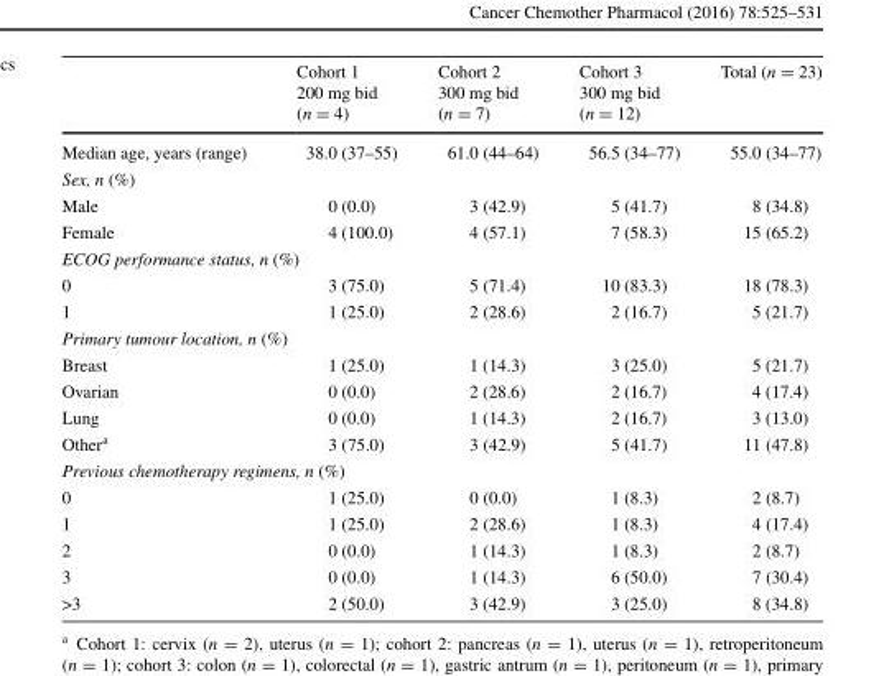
<table><thead><tr><td></td><td>Cohort 1 200 mg bid (n = 4)</td><td>Cohort 2 300 mg bid (n = 7)</td><td>Cohort 3 300 mg bid (n = 12)</td><td>Total (n = 23)</td></tr></thead><tbody><tr><td>Median age, years (range)</td><td>38.0 (37–55)</td><td>61.0 (44–64)</td><td>56.5 (34–77)</td><td>55.0 (34–77)</td></tr><tr><td colspan="5">Sex, n (%)</td></tr><tr><td>Male</td><td>0 (0.0)</td><td>3 (42.9)</td><td>5 (41.7)</td><td>8 (34.8)</td></tr><tr><td>Female</td><td>4 (100.0)</td><td>4 (57.1)</td><td>7 (58.3)</td><td>15 (65.2)</td></tr><tr><td colspan="5">ECOG performance status, n (%)</td></tr><tr><td>0</td><td>3 (75.0)</td><td>5 (71.4)</td><td>10 (83.3)</td><td>18 (78.3)</td></tr><tr><td>1</td><td>1 (25.0)</td><td>2 (28.6)</td><td>2 (16.7)</td><td>5 (21.7)</td></tr><tr><td colspan="5">Primary tumour location, n (%)</td></tr><tr><td>Breast</td><td>1 (25.0)</td><td>1 (14.3)</td><td>3 (25.0)</td><td>5 (21.7)</td></tr><tr><td>Ovarian</td><td>0 (0.0)</td><td>2 (28.6)</td><td>2 (16.7)</td><td>4 (17.4)</td></tr><tr><td>Lung</td><td>0 (0.0)</td><td>1 (14.3)</td><td>2 (16.7)</td><td>3 (13.0)</td></tr><tr><td>Other<sup>a</sup></td><td>3 (75.0)</td><td>3 (42.9)</td><td>5 (41.7)</td><td>11 (47.8)</td></tr><tr><td colspan="5">Previous chemotherapy regimens, n (%)</td></tr><tr><td>0</td><td>1 (25.0)</td><td>0 (0.0)</td><td>1 (8.3)</td><td>2 (8.7)</td></tr><tr><td>1</td><td>1 (25.0)</td><td>2 (28.6)</td><td>1 (8.3)</td><td>4 (17.4)</td></tr><tr><td>2</td><td>0 (0.0)</td><td>1 (14.3)</td><td>1 (8.3)</td><td>2 (8.7)</td></tr><tr><td>3</td><td>0 (0.0)</td><td>1 (14.3)</td><td>6 (50.0)</td><td>7 (30.4)</td></tr><tr><td>&gt;3</td><td>2 (50.0)</td><td>3 (42.9)</td><td>3 (25.0)</td><td>8 (34.8)</td></tr></tbody></table>